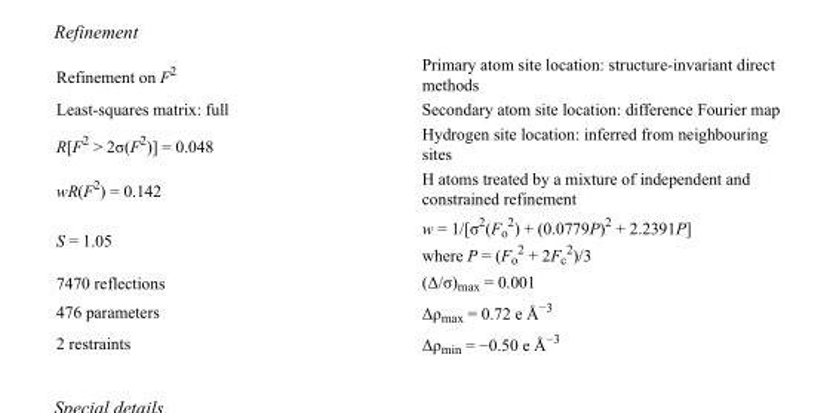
<table><tbody><tr><td>Refinement on F<sup>2</sup></td><td>Primary atom site location: structure-invariant direct methods</td></tr><tr><td>Least-squares matrix: full</td><td>Secondary atom site location: difference Fourier map</td></tr><tr><td>R[F<sup>2</sup> &gt; 2σ(F<sup>2</sup>)] = 0.048</td><td>Hydrogen site location: inferred from neighbouring sites</td></tr><tr><td>wR(F<sup>2</sup>) = 0.142</td><td>H atoms treated by a mixture of independent and constrained refinement</td></tr><tr><td>S = 1.05</td><td>w = 1/[σ<sup>2</sup>(F<sub>o</sub> <sup>2</sup>) + (0.0779P)<sup>2</sup> + 2.2391P] where P = (F<sub>o</sub> <sup>2</sup> + 2F<sub>c</sub> <sup>2</sup>)/3</td></tr><tr><td>7470 reflections</td><td>(Δ/σ)<sub>max</sub> = 0.001</td></tr><tr><td>476 parameters</td><td>Δρ<sub>max</sub> = 0.72 e Å<sup>−3</sup></td></tr><tr><td>2 restraints</td><td>Δρ<sub>min</sub> = −0.50 e Å<sup>−3</sup></td></tr></tbody></table>